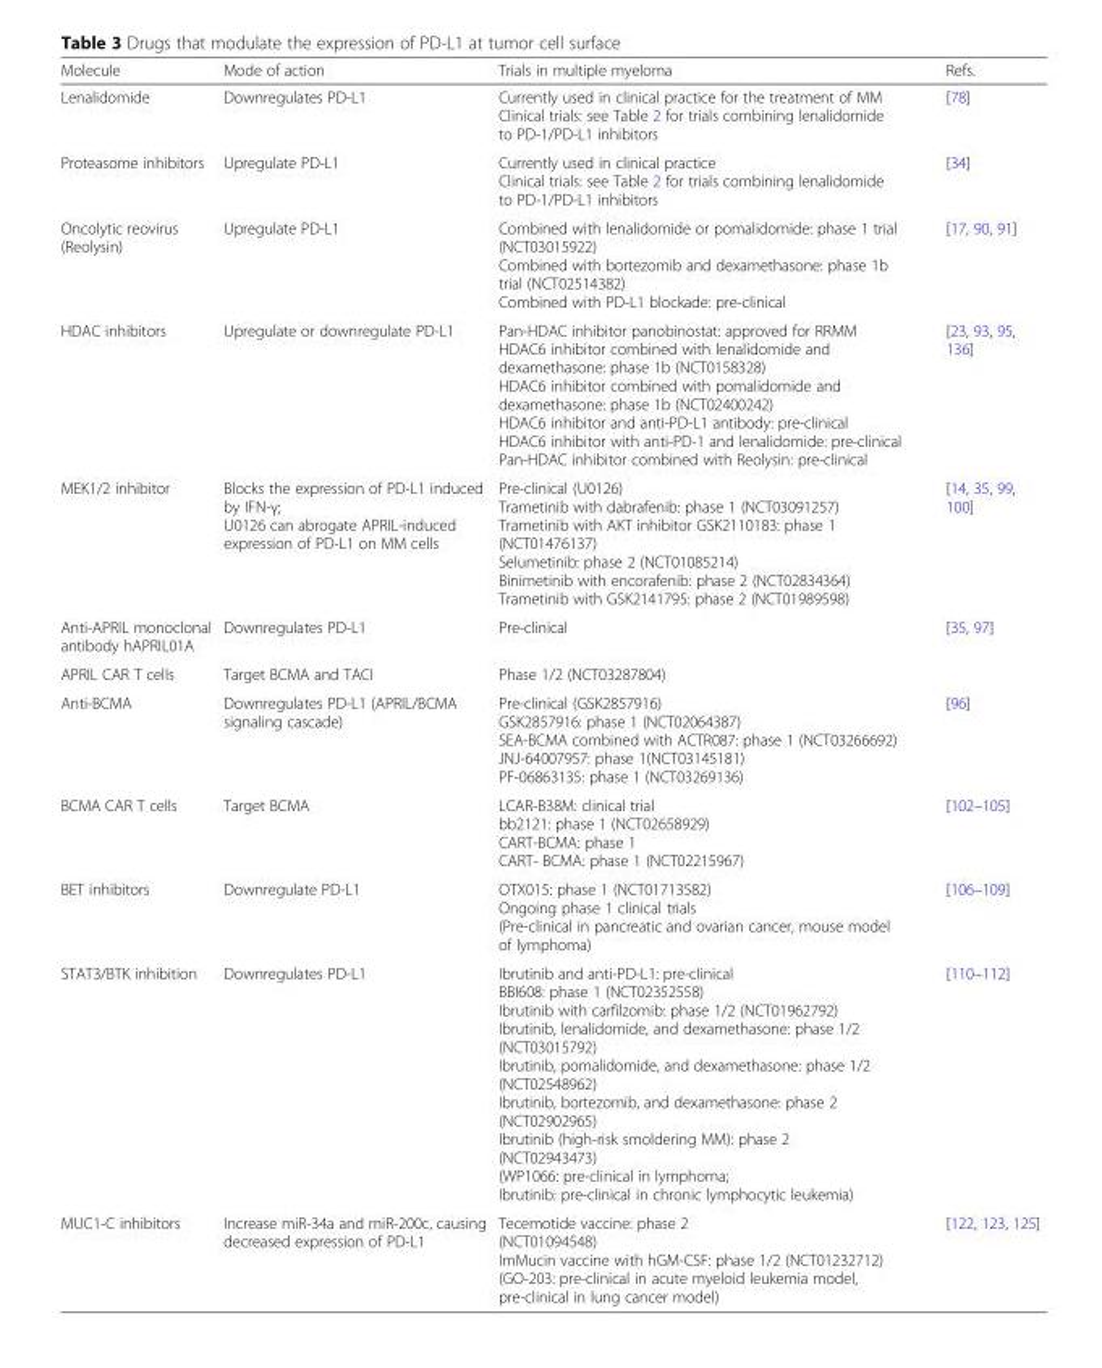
<table><thead><tr><td>Molecule</td><td>Mode of action</td><td>Trials in multiple myeloma</td><td>Refs.</td></tr></thead><tbody><tr><td>Lenalidomide</td><td>Downregulates PD-L1</td><td>Currently used in clinical practice for the treatment of MM Clinical trials: see Table 2 for trials combining lenalidomide to PD-1/PD-L1 inhibitors</td><td>[78]</td></tr><tr><td>Proteasome inhibitors</td><td>Upregulate PD-L1</td><td>Currently used in clinical practice Clinical trials: see Table 2 for trials combining lenalidomide to PD-1/PD-L1 inhibitors</td><td>[34]</td></tr><tr><td>Oncolytic reovirus (Reolysin)</td><td>Upregulate PD-L1</td><td>Combined with lenalidomide or pomalidomide: phase 1 trial (NCT03015922) Combined with bortezomib and dexamethasone: phase 1b trial (NCT02514382) Combined with PD-L1 blockade: pre-clinical</td><td>[17, 90, 91]</td></tr><tr><td>HDAC inhibitors</td><td>Upregulate or downregulate PD-L1</td><td>Pan-HDAC inhibitor panobinostat: approved for RRMM HDAC6 inhibitor combined with lenalidomide and dexamethasone: phase 1b (NCT0158328) HDAC6 inhibitor combined with pomalidomide and dexamethasone: phase 1b (NCT02400242) HDAC6 inhibitor and anti-PD-L1 antibody: pre-clinical HDAC6 inhibitor with anti-PD-1 and lenalidomide: pre-clinical Pan-HDAC inhibitor combined with Reolysin: pre-clinical</td><td>[23, 93, 95, 136]</td></tr><tr><td>MEK1/2 inhibitor</td><td>Blocks the expression of PD-L1 induced by IFN-γ; U0126 can abrogate APRIL-induced expression of PD-L1 on MM cells</td><td>Pre-clinical (U0126) Trametinib with dabrafenib: phase 1 (NCT03091257) Trametinib with AKT inhibitor GSK2110183: phase 1 (NCT01476137) Selumetinib: phase 2 (NCT01085214) Binimetinib with encorafenib: phase 2 (NCT02834364) Trametinib with GSK2141795: phase 2 (NCT01989598)</td><td>[14, 35, 99, 100]</td></tr><tr><td>Anti-APRIL monoclonal antibody hAPRIL01A</td><td>Downregulates PD-L1</td><td>Pre-clinical</td><td>[35, 97]</td></tr><tr><td>APRIL CAR T cells</td><td>Target BCMA and TACI</td><td>Phase 1/2 (NCT03287804)</td><td></td></tr><tr><td>Anti-BCMA</td><td>Downregulates PD-L1 (APRIL/BCMA signaling cascade)</td><td>Pre-clinical (GSK2857916) GSK2857916: phase 1 (NCT02064387) SEA-BCMA combined with ACTR087: phase 1 (NCT03266692) JNJ-64007957: phase 1(NCT03145181) PF-06863135: phase 1 (NCT03269136)</td><td>[96]</td></tr><tr><td>BCMA CAR T cells</td><td>Target BCMA</td><td>LCAR-B38M: clinical trial bb2121: phase 1 (NCT02658929) CART-BCMA: phase 1 CART- BCMA: phase 1 (NCT02215967)</td><td>[102–105]</td></tr><tr><td>BET inhibitors</td><td>Downregulate PD-L1</td><td>OTX015: phase 1 (NCT01713582) Ongoing phase 1 clinical trials (Pre-clinical in pancreatic and ovarian cancer, mouse model of lymphoma)</td><td>[106–109]</td></tr><tr><td>STAT3/BTK inhibition</td><td>Downregulates PD-L1</td><td>Ibrutinib and anti-PD-L1: pre-clinical BBI608: phase 1 (NCT02352558) Ibrutinib with carfilzomib: phase 1/2 (NCT01962792) Ibrutinib, lenalidomide, and dexamethasone: phase 1/2 (NCT03015792) Ibrutinib, pomalidomide, and dexamethasone: phase 1/2 (NCT02548962) Ibrutinib, bortezomib, and dexamethasone: phase 2 (NCT02902965) Ibrutinib (high-risk smoldering MM): phase 2 (NCT02943473) (WP1066: pre-clinical in lymphoma; Ibrutinib: pre-clinical in chronic lymphocytic leukemia)</td><td>[110–112]</td></tr><tr><td>MUC1-C inhibitors</td><td>Increase miR-34a and miR-200c, causing decreased expression of PD-L1</td><td>Tecemotide vaccine: phase 2 (NCT01094548) ImMucin vaccine with hGM-CSF: phase 1/2 (NCT01232712) (GO-203: pre-clinical in acute myeloid leukemia model, pre-clinical in lung cancer model)</td><td>[122, 123, 125]</td></tr></tbody></table>